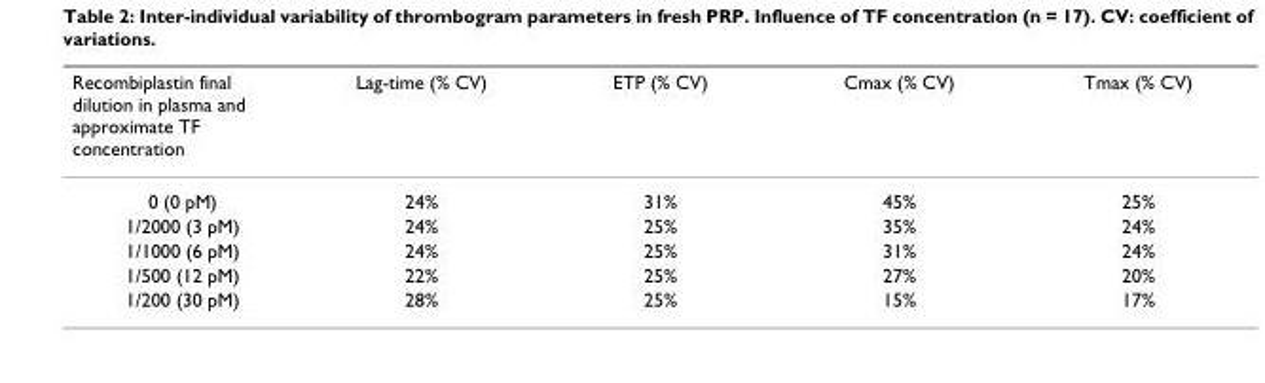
<table><thead><tr><td>Recombiplastin final dilution in plasma and approximate TF concentration</td><td>Lag-time (% CV)</td><td>ETP (% CV)</td><td>Cmax (% CV)</td><td>Tmax (% CV)</td></tr></thead><tbody><tr><td>0 (0 pM)</td><td>24%</td><td>31%</td><td>45%</td><td>25%</td></tr><tr><td>1/2000 (3 pM)</td><td>24%</td><td>25%</td><td>35%</td><td>24%</td></tr><tr><td>1/1000 (6 pM)</td><td>24%</td><td>25%</td><td>31%</td><td>24%</td></tr><tr><td>1/500 (12 pM)</td><td>22%</td><td>25%</td><td>27%</td><td>20%</td></tr><tr><td>1/200 (30 pM)</td><td>28%</td><td>25%</td><td>15%</td><td>17%</td></tr></tbody></table>